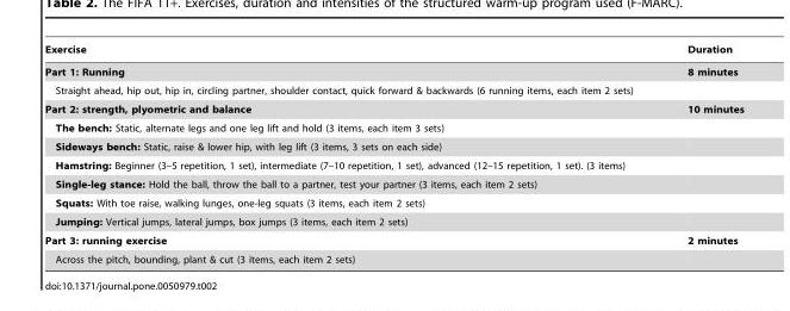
<table><thead><tr><td>Exercise</td><td>Duration</td></tr></thead><tbody><tr><td>Part 1: Running</td><td>8 minutes</td></tr><tr><td colspan="2">Straight ahead, hip out, hip in, circling partner, shoulder contact, quick forward &amp; backwards (6 running items, each item 2 sets)</td></tr><tr><td>Part 2: strength, plyometric and balance</td><td>10 minutes</td></tr><tr><td colspan="2">The bench: Static, alternate legs and one leg lift and hold (3 items, each item 3 sets)</td></tr><tr><td colspan="2">Sideways bench: Static, raise &amp; lower hip, with leg lift (3 items, 3 sets on each side)</td></tr><tr><td colspan="2">Hamstring: Beginner (3–5 repetition, 1 set), intermediate (7–10 repetition, 1 set), advanced (12–15 repetition, 1 set). (3 items)</td></tr><tr><td colspan="2">Single-leg stance: Hold the ball, throw the ball to a partner, test your partner (3 items, each item 2 sets)</td></tr><tr><td colspan="2">Squats: With toe raise, walking lunges, one-leg squats (3 items, each item 2 sets)</td></tr><tr><td colspan="2">Jumping: Vertical jumps, lateral jumps, box jumps (3 items, each item 2 sets)</td></tr><tr><td>Part 3: running exercise</td><td>2 minutes</td></tr><tr><td>Across the pitch, bounding, plant &amp; cut (3 items, each item 2 sets)</td><td></td></tr></tbody></table>